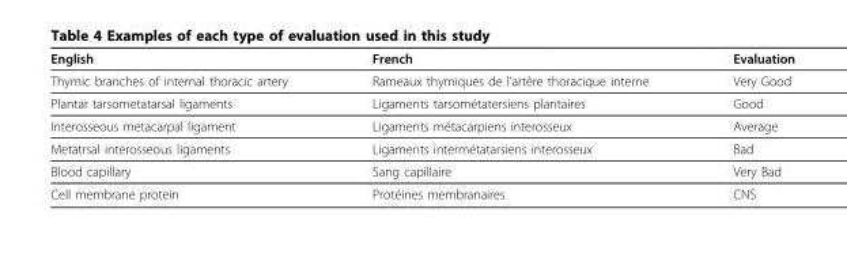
<table><thead><tr><td>English</td><td>French</td><td>Evaluation</td></tr></thead><tbody><tr><td>Thymic branches of internal thoracic artery</td><td>Rameaux thymiques de l’artère thoracique interne</td><td>Very Good</td></tr><tr><td>Plantar tarsometatarsal ligaments</td><td>Ligaments tarsométatersiens plantaires</td><td>Good</td></tr><tr><td>Interosseous metacarpal ligament</td><td>Ligaments métacarpiens interosseux</td><td>Average</td></tr><tr><td>Metatrsal interosseous ligaments</td><td>Ligaments intermétatarsiens interosseux</td><td>Bad</td></tr><tr><td>Blood capillary</td><td>Sang capillaire</td><td>Very Bad</td></tr><tr><td>Cell membrane protein</td><td>Protéines membranaires</td><td>CNS</td></tr></tbody></table>